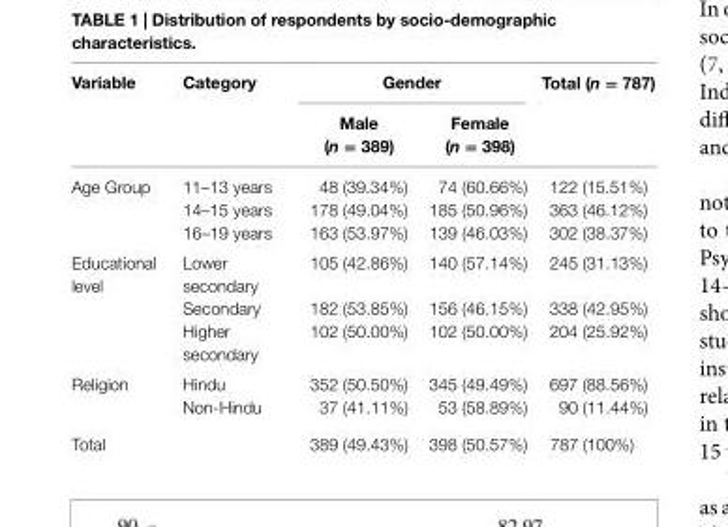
<table><thead><tr><td rowspan="2">Variable</td><td rowspan="2">category</td><td colspan="2">gender</td><td rowspan="2">Total (n = 787)</td></tr><tr><td>Male (n = 389)</td><td>Female (n = 398)</td></tr></thead><tbody><tr><td rowspan="3">Age Group</td><td>11–13 years</td><td>48 (39.34%)</td><td>74 (60.66%)</td><td>122 (15.51%)</td></tr><tr><td>14–15 years</td><td>178 (49.04%)</td><td>185 (50.96%)</td><td>363 (46.12%)</td></tr><tr><td>16–19 years</td><td>163 (53.97%)</td><td>139 (46.03%)</td><td>302 (38.37%)</td></tr><tr><td rowspan="3">Educational level</td><td>Lower secondary</td><td>105 (42.86%)</td><td>140 (57.14%)</td><td>245 (31.13%)</td></tr><tr><td>Secondary</td><td>182 (53.85%)</td><td>156 (46.15%)</td><td>338 (42.95%)</td></tr><tr><td>Higher secondary</td><td>102 (50.00%)</td><td>102 (50.00%)</td><td>204 (25.92%)</td></tr><tr><td rowspan="2">Religion</td><td>Hindu</td><td>352 (50.50%)</td><td>345 (49.49%)</td><td>697 (88.56%)</td></tr><tr><td>Non-Hindu</td><td>37 (41.11%)</td><td>53 (58.89%)</td><td>90 (11.44%)</td></tr><tr><td colspan="2">Total</td><td>389 (49.43%)</td><td>398 (50.57%)</td><td>787 (100%)</td></tr></tbody></table>